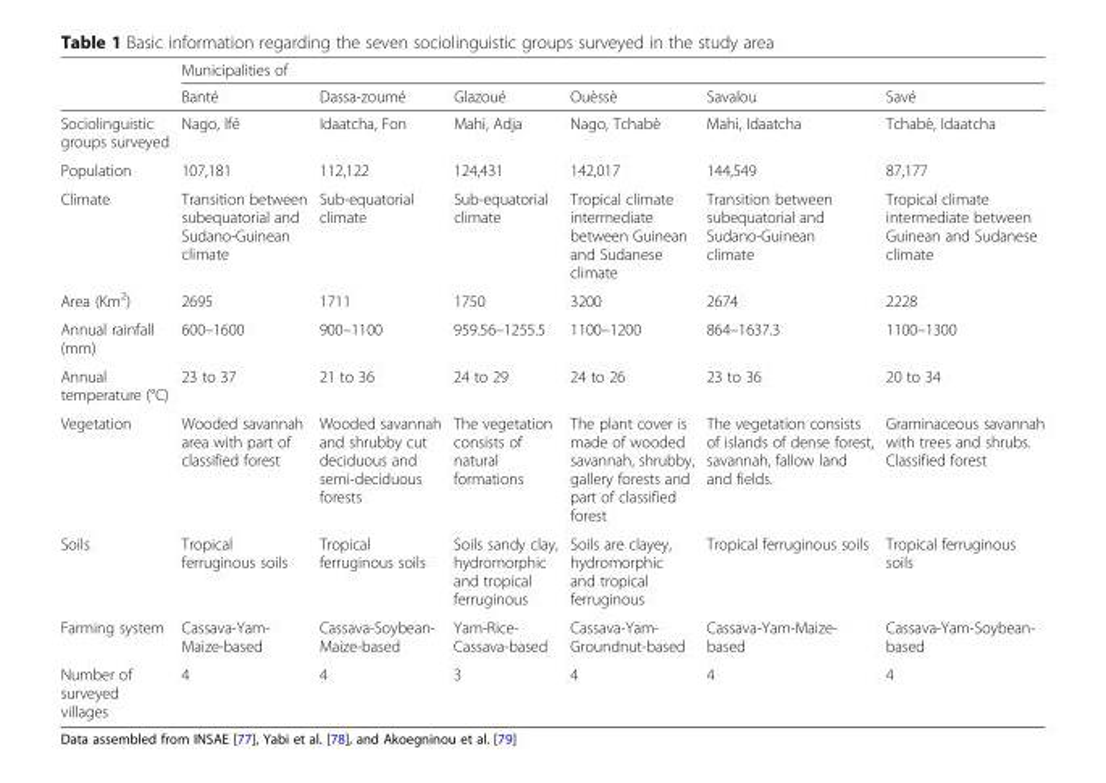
<table><thead><tr><td rowspan="2"></td><td colspan="6">Municipalities of</td></tr><tr><td>Banté</td><td>Dassa-zoumé</td><td>Glazoué</td><td>Ouèssè</td><td>Savalou</td><td>Savé</td></tr></thead><tbody><tr><td>Sociolinguistic groups surveyed</td><td>Nago, Ifé</td><td>Idaatcha, Fon</td><td>Mahi, Adja</td><td>Nago, Tchabè</td><td>Mahi, Idaatcha</td><td>Tchabè, Idaatcha</td></tr><tr><td>Population</td><td>107,181</td><td>112,122</td><td>124,431</td><td>142,017</td><td>144,549</td><td>87,177</td></tr><tr><td>Climate</td><td>Transition between subequatorial and Sudano-Guinean climate</td><td>Sub-equatorial climate</td><td>Sub-equatorial climate</td><td>Tropical climate intermediate between Guinean and Sudanese climate</td><td>Transition between subequatorial and Sudano-Guinean climate</td><td>Tropical climate intermediate between Guinean and Sudanese climate</td></tr><tr><td>Area (Km<sup>2</sup>)</td><td>2695</td><td>1711</td><td>1750</td><td>3200</td><td>2674</td><td>2228</td></tr><tr><td>Annual rainfall (mm)</td><td>600–1600</td><td>900–1100</td><td>959.56–1255.5</td><td>1100–1200</td><td>864–1637.3</td><td>1100–1300</td></tr><tr><td>Annual temperature (°C)</td><td>23 to 37</td><td>21 to 36</td><td>24 to 29</td><td>24 to 26</td><td>23 to 36</td><td>20 to 34</td></tr><tr><td>Vegetation</td><td>Wooded savannah area with part of classified forest</td><td>Wooded savannah and shrubby cut deciduous and semi-deciduous forests</td><td>The vegetation consists of natural formations</td><td>The plant cover is made of wooded savannah, shrubby, gallery forests and part of classified forest</td><td>The vegetation consists of islands of dense forest, savannah, fallow land and fields.</td><td>Graminaceous savannah with trees and shrubs. Classified forest</td></tr><tr><td>Soils</td><td>Tropical ferruginous soils</td><td>Tropical ferruginous soils</td><td>Soils sandy clay, hydromorphic and tropical ferruginous</td><td>Soils are clayey, hydromorphic and tropical ferruginous</td><td>Tropical ferruginous soils</td><td>Tropical ferruginous soils</td></tr><tr><td>Farming system</td><td>Cassava-Yam- Maize-based</td><td>Cassava-Soybean- Maize-based</td><td>Yam-Rice- Cassava-based</td><td>Cassava-Yam- Groundnut-based</td><td>Cassava-Yam-Maize- based</td><td>Cassava-Yam-Soybean- based</td></tr><tr><td>Number of surveyed villages</td><td>4</td><td>4</td><td>3</td><td>4</td><td>4</td><td>4</td></tr></tbody></table>